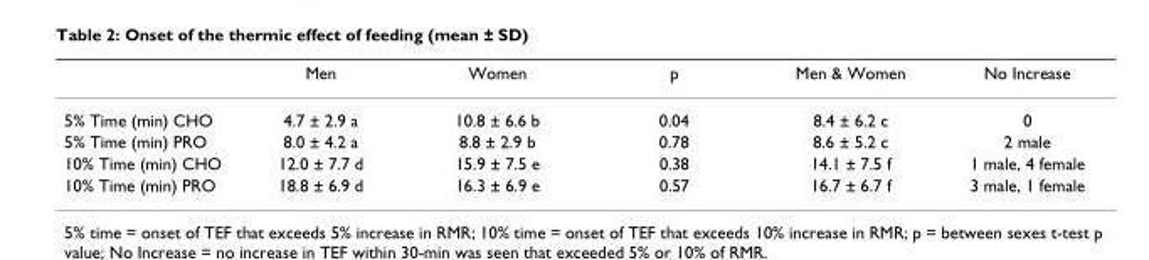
<table><thead><tr><td></td><td>Men</td><td>Women</td><td>p</td><td>Men &amp; Women</td><td>No Increase</td></tr></thead><tbody><tr><td>5% Time (min) CHO</td><td>4.7 ± 2.9 a</td><td>10.8 ± 6.6 b</td><td>0.04</td><td>8.4 ± 6.2 c</td><td>0</td></tr><tr><td>5% Time (min) PRO</td><td>8.0 ± 4.2 a</td><td>8.8 ± 2.9 b</td><td>0.78</td><td>8.6 ± 5.2 c</td><td>2 male</td></tr><tr><td>10% Time (min) CHO</td><td>12.0 ± 7.7 d</td><td>15.9 ± 7.5 e</td><td>0.38</td><td>14.1 ± 7.5 f</td><td>1 male, 4 female</td></tr><tr><td>10% Time (min) PRO</td><td>18.8 ± 6.9 d</td><td>16.3 ± 6.9 e</td><td>0.57</td><td>16.7 ± 6.7 f</td><td>3 male, 1 female</td></tr></tbody></table>